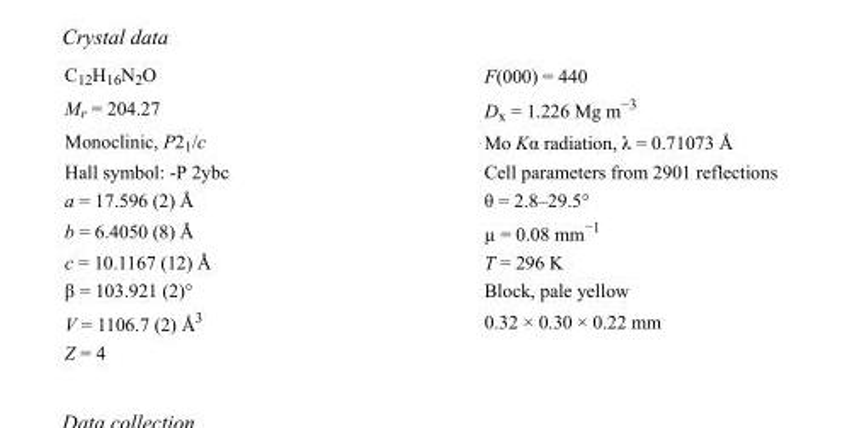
<table><tbody><tr><td>C<sub>12</sub>H<sub>16</sub>N<sub>2</sub>O</td><td>F(000) = 440</td></tr><tr><td>M<sub>r</sub> = 204.27</td><td>D<sub>x</sub> = 1.226 Mg m<sup>−3</sup></td></tr><tr><td>Monoclinic, P2<sub>1</sub>/c</td><td>Mo Kα radiation, λ = 0.71073 Å</td></tr><tr><td>Hall symbol: -P 2ybc</td><td>Cell parameters from 2901 reflections</td></tr><tr><td>a = 17.596 (2) Å</td><td>θ = 2.8–29.5°</td></tr><tr><td>b = 6.4050 (8) Å</td><td>µ = 0.08 mm<sup>−1</sup></td></tr><tr><td>c = 10.1167 (12) Å</td><td>T = 296 K</td></tr><tr><td>β = 103.921 (2)°</td><td>Block, pale yellow</td></tr><tr><td>V = 1106.7 (2) Å<sup>3</sup></td><td>0.32 × 0.30 × 0.22 mm</td></tr><tr><td>Z = 4</td><td></td></tr></tbody></table>